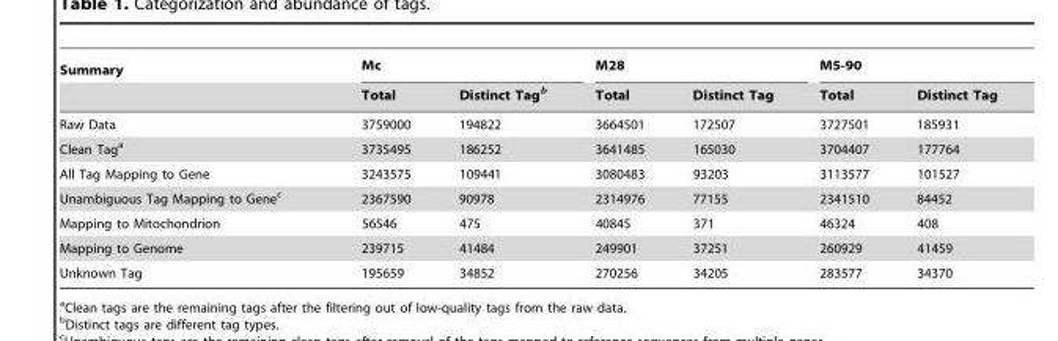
<table><thead><tr><td rowspan="2">Summary</td><td colspan="2">Mc</td><td colspan="2">M28</td><td colspan="2">M5-90</td></tr><tr><td>Total</td><td>Distinct Tag<sup>b</sup></td><td>Total</td><td>Distinct Tag</td><td>Total</td><td>Distinct Tag</td></tr></thead><tbody><tr><td>Raw Data</td><td>3759000</td><td>194822</td><td>3664501</td><td>172507</td><td>3727501</td><td>185931</td></tr><tr><td>Clean Tag<sup>a</sup></td><td>3735495</td><td>186252</td><td>3641485</td><td>165030</td><td>3704407</td><td>177764</td></tr><tr><td>All Tag Mapping to Gene</td><td>3243575</td><td>109441</td><td>3080483</td><td>93203</td><td>3113577</td><td>101527</td></tr><tr><td>Unambiguous Tag Mapping to Gene<sup>c</sup></td><td>2367590</td><td>90978</td><td>2314976</td><td>77155</td><td>2341510</td><td>84452</td></tr><tr><td>Mapping to Mitochondrion</td><td>56546</td><td>475</td><td>40845</td><td>371</td><td>46324</td><td>408</td></tr><tr><td>Mapping to Genome</td><td>239715</td><td>41484</td><td>249901</td><td>37251</td><td>260929</td><td>41459</td></tr><tr><td>Unknown Tag</td><td>195659</td><td>34852</td><td>270256</td><td>34205</td><td>283577</td><td>34370</td></tr></tbody></table>